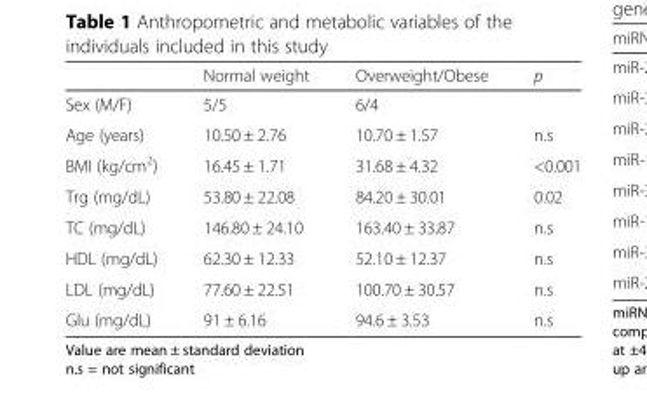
<table><thead><tr><td></td><td>Normal weight</td><td>Overweight/Obese</td><td>p</td></tr></thead><tbody><tr><td>Sex (M/F)</td><td>5/5</td><td>6/4</td><td></td></tr><tr><td>Age (years)</td><td>10.50 ± 2.76</td><td>10.70 ± 1.57</td><td>n.s</td></tr><tr><td>BMI (kg/cm<sup>2</sup>)</td><td>16.45 ± 1.71</td><td>31.68 ± 4.32</td><td>&lt;0.001</td></tr><tr><td>Trg (mg/dL)</td><td>53.80 ± 22.08</td><td>84.20 ± 30.01</td><td>0.02</td></tr><tr><td>TC (mg/dL)</td><td>146.80 ± 24.10</td><td>163.40 ± 33.87</td><td>n.s</td></tr><tr><td>HDL (mg/dL)</td><td>62.30 ± 12.33</td><td>52.10 ± 12.37</td><td>n.s</td></tr><tr><td>LDL (mg/dL)</td><td>77.60 ± 22.51</td><td>100.70 ± 30.57</td><td>n.s</td></tr><tr><td>Glu (mg/dL)</td><td>91 ± 6.16</td><td>94.6 ± 3.53</td><td>n.s</td></tr></tbody></table>